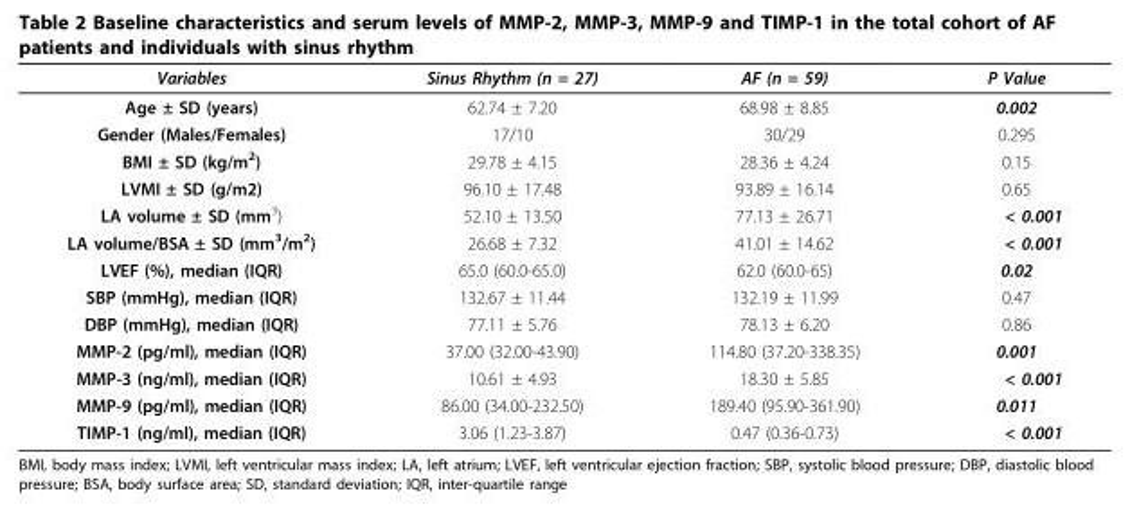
<table><thead><tr><td>Variables</td><td>Sinus Rhythm (n = 27)</td><td>AF (n = 59)</td><td>P Value</td></tr></thead><tbody><tr><td>Age ± SD (years)</td><td>62.74 ± 7.20</td><td>68.98 ± 8.85</td><td>0.002</td></tr><tr><td>Gender (Males/Females)</td><td>17/10</td><td>30/29</td><td>0.295</td></tr><tr><td>BMI ± SD (kg/m<sup>2</sup>)</td><td>29.78 ± 4.15</td><td>28.36 ± 4.24</td><td>0.15</td></tr><tr><td>LVMI ± SD (g/m2)</td><td>96.10 ± 17.48</td><td>93.89 ± 16.14</td><td>0.65</td></tr><tr><td>LA volume ± SD (mm<sup>3</sup>)</td><td>52.10 ± 13.50</td><td>77.13 ± 26.71</td><td>&lt; 0.001</td></tr><tr><td>LA volume/BSA ± SD (mm<sup>3</sup>/m<sup>2</sup>)</td><td>26.68 ± 7.32</td><td>41.01 ± 14.62</td><td>&lt; 0.001</td></tr><tr><td>LVEF (%), median (IQR)</td><td>65.0 (60.0-65.0)</td><td>62.0 (60.0-65)</td><td>0.02</td></tr><tr><td>SBP (mmHg), median (IQR)</td><td>132.67 ± 11.44</td><td>132.19 ± 11.99</td><td>0.47</td></tr><tr><td>DBP (mmHg), median (IQR)</td><td>77.11 ± 5.76</td><td>78.13 ± 6.20</td><td>0.86</td></tr><tr><td>MMP-2 (pg/ml), median (IQR)</td><td>37.00 (32.00-43.90)</td><td>114.80 (37.20-338.35)</td><td>0.001</td></tr><tr><td>MMP-3 (ng/ml), median (IQR)</td><td>10.61 ± 4.93</td><td>18.30 ± 5.85</td><td>&lt; 0.001</td></tr><tr><td>MMP-9 (pg/ml), median (IQR)</td><td>86.00 (34.00-232.50)</td><td>189.40 (95.90-361.90)</td><td>0.011</td></tr><tr><td>TIMP-1 (ng/ml), median (IQR)</td><td>3.06 (1.23-3.87)</td><td>0.47 (0.36-0.73)</td><td>&lt; 0.001</td></tr></tbody></table>